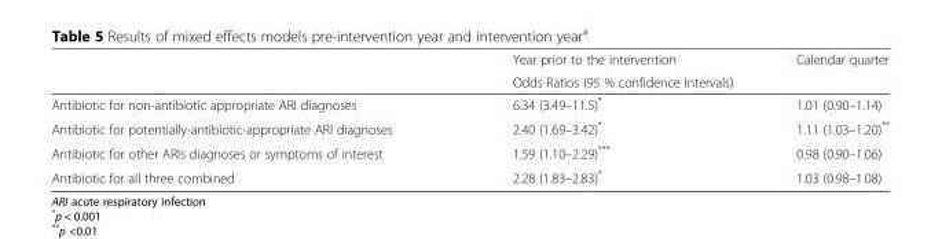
<table><thead><tr><td rowspan="2"></td><td>Year prior to the intervention</td><td>Calendar quarter</td></tr><tr><td colspan="2">Odds Ratios (95 % confidence Intervals)</td></tr></thead><tbody><tr><td>Antibiotic for non-antibiotic appropriate ARI diagnoses</td><td>6.34 (3.49–11.5)*</td><td>1.01 (0.90–1.14)</td></tr><tr><td>Antibiotic for potentially-antibiotic-appropriate ARI diagnoses</td><td>2.40 (1.69–3.42)*</td><td>1.11 (1.03–1.20)**</td></tr><tr><td>Antibiotic for other ARIs diagnoses or symptoms of interest</td><td>1.59 (1.10–2.29)***</td><td>0.98 (0.90–1.06)</td></tr><tr><td>Antibiotic for all three combined</td><td>2.28 (1.83–2.83)*</td><td>1.03 (0.98–1.08)</td></tr></tbody></table>